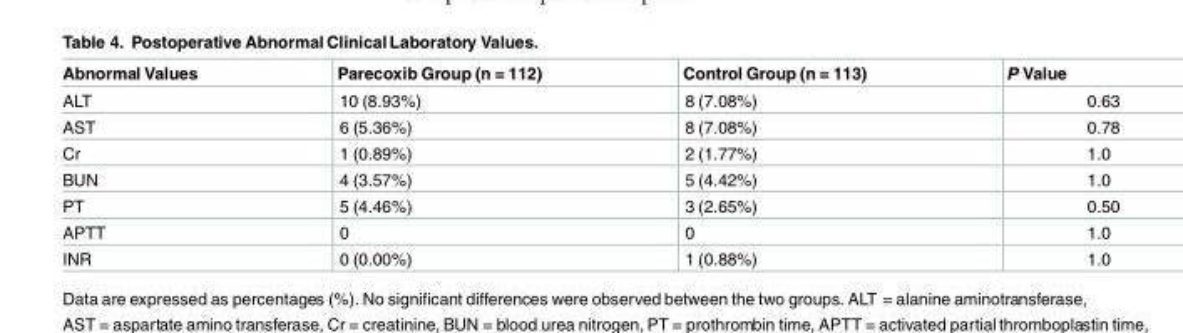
<table><thead><tr><td>Abnormal Values</td><td>Parecoxib Group (n = 112)</td><td>Control Group (n = 113)</td><td>P Value</td></tr></thead><tbody><tr><td>ALT</td><td>10 (8.93%)</td><td>8 (7.08%)</td><td>0.63</td></tr><tr><td>AST</td><td>6 (5.36%)</td><td>8 (7.08%)</td><td>0.78</td></tr><tr><td>Cr</td><td>1 (0.89%)</td><td>2 (1.77%)</td><td>1.0</td></tr><tr><td>BUN</td><td>4 (3.57%)</td><td>5 (4.42%)</td><td>1.0</td></tr><tr><td>PT</td><td>5 (4.46%)</td><td>3 (2.65%)</td><td>0.50</td></tr><tr><td>APTT</td><td>0</td><td>0</td><td>1.0</td></tr><tr><td>INR</td><td>0 (0.00%)</td><td>1 (0.88%)</td><td>1.0</td></tr></tbody></table>